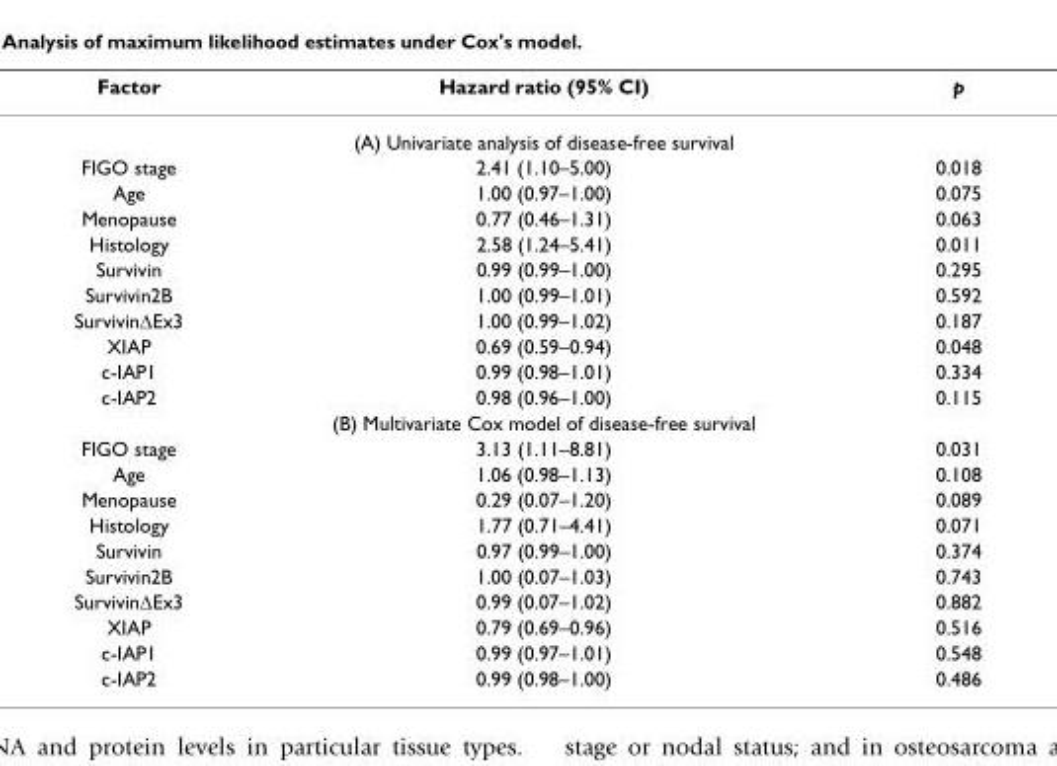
<table><thead><tr><td>Factor</td><td>Hazard ratio (95% CI)</td><td>p</td></tr></thead><tbody><tr><td colspan="3">(A) Univariate analysis of disease-free survival</td></tr><tr><td>FIGO stage</td><td>2.41 (1.10–5.00)</td><td>0.018</td></tr><tr><td>Age</td><td>1.00 (0.97–1.00)</td><td>0.075</td></tr><tr><td>Menopause</td><td>0.77 (0.46–1.31)</td><td>0.063</td></tr><tr><td>Histology</td><td>2.58 (1.24–5.41)</td><td>0.011</td></tr><tr><td>Survivin</td><td>0.99 (0.99–1.00)</td><td>0.295</td></tr><tr><td>Survivin2B</td><td>1.00 (0.99–1.01)</td><td>0.592</td></tr><tr><td>Survivin∆Ex3</td><td>1.00 (0.99–1.02)</td><td>0.187</td></tr><tr><td>XIAP</td><td>0.69 (0.59–0.94)</td><td>0.048</td></tr><tr><td>c-IAP1</td><td>0.99 (0.98–1.01)</td><td>0.334</td></tr><tr><td>c-IAP2</td><td>0.98 (0.96–1.00)</td><td>0.115</td></tr><tr><td colspan="3">(B) Multivariate Cox model of disease-free survival</td></tr><tr><td>FIGO stage</td><td>3.13 (1.11–8.81)</td><td>0.031</td></tr><tr><td>Age</td><td>1.06 (0.98–1.13)</td><td>0.108</td></tr><tr><td>Menopause</td><td>0.29 (0.07–1.20)</td><td>0.089</td></tr><tr><td>Histology</td><td>1.77 (0.71–4.41)</td><td>0.071</td></tr><tr><td>Survivin</td><td>0.97 (0.99–1.00)</td><td>0.374</td></tr><tr><td>Survivin2B</td><td>1.00 (0.07–1.03)</td><td>0.743</td></tr><tr><td>Survivin∆Ex3</td><td>0.99 (0.07–1.02)</td><td>0.882</td></tr><tr><td>XIAP</td><td>0.79 (0.69–0.96)</td><td>0.516</td></tr><tr><td>c-IAP1</td><td>0.99 (0.97–1.01)</td><td>0.548</td></tr><tr><td>c-IAP2</td><td>0.99 (0.98–1.00)</td><td>0.486</td></tr></tbody></table>